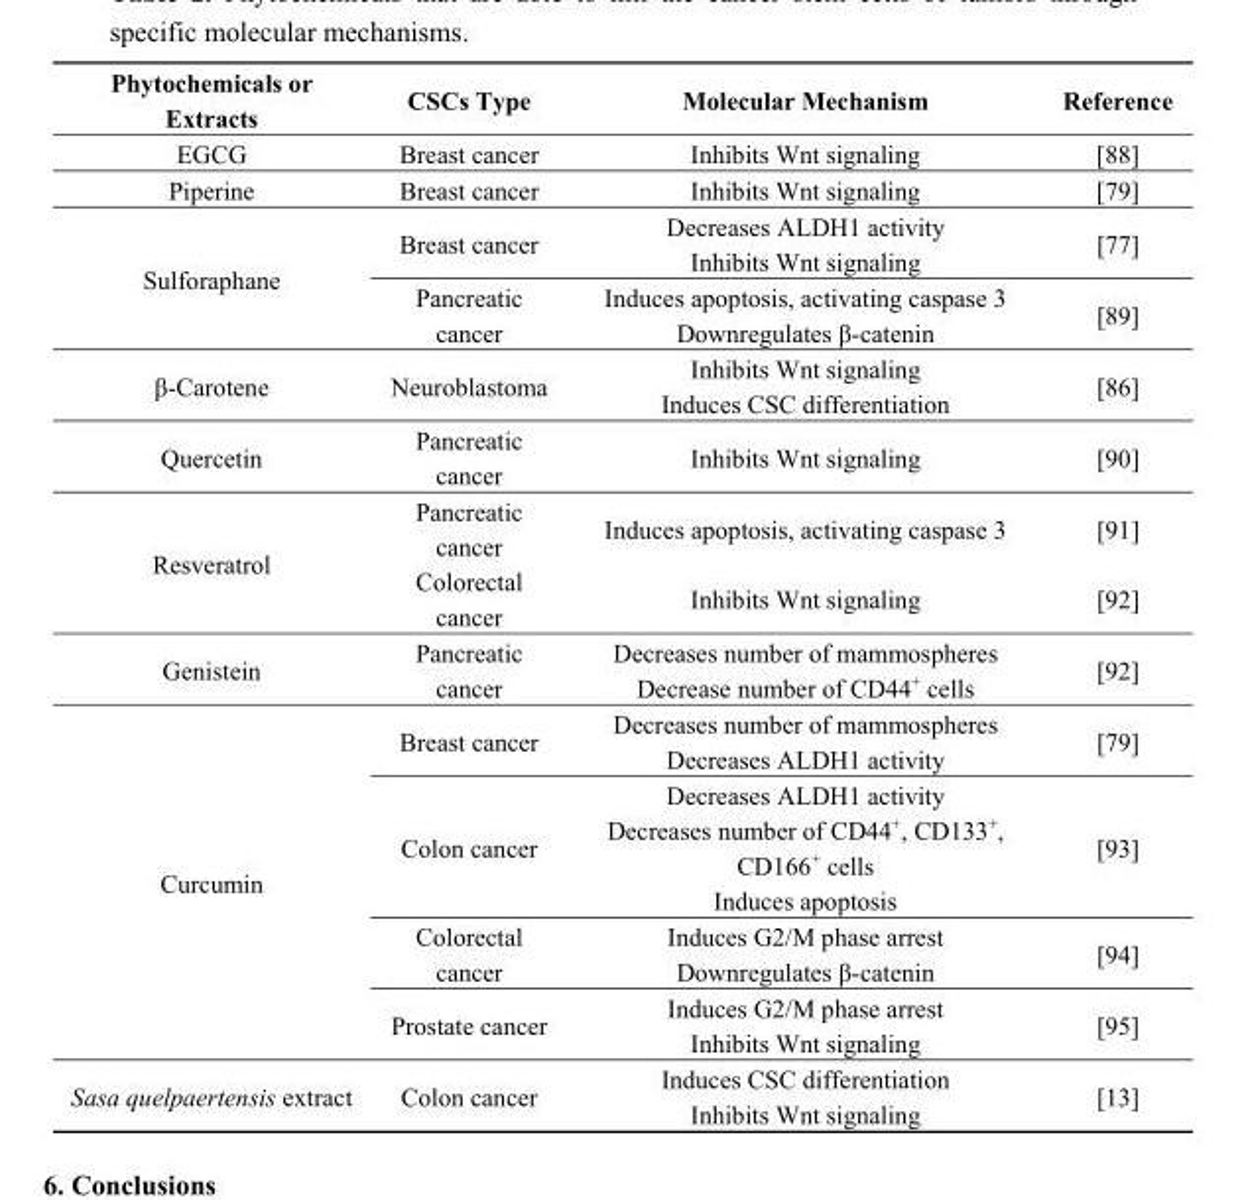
<table><thead><tr><td>Phytochemicals or Extracts</td><td>CSCs Type</td><td>Molecular Mechanism</td><td>Reference</td></tr></thead><tbody><tr><td>EGCG</td><td>Breast cancer</td><td>Inhibits Wnt signaling</td><td>[88]</td></tr><tr><td>Piperine</td><td>Breast cancer</td><td>Inhibits Wnt signaling</td><td>[79]</td></tr><tr><td rowspan="4">Sulforaphane</td><td rowspan="2">Breast cancer</td><td>Decreases ALDH1 activity</td><td rowspan="2">[77]</td></tr><tr><td>Inhibits Wnt signaling</td></tr><tr><td rowspan="2">Pancreatic cancer</td><td>Induces apoptosis, activating caspase 3</td><td rowspan="2">[89]</td></tr><tr><td>Downregulates β-catenin</td></tr><tr><td rowspan="2">β-Carotene</td><td rowspan="2">Neuroblastoma</td><td>Inhibits Wnt signaling</td><td rowspan="2">[86]</td></tr><tr><td>Induces CSC differentiation</td></tr><tr><td>Quercetin</td><td>Pancreatic cancer</td><td>Inhibits Wnt signaling</td><td>[90]</td></tr><tr><td rowspan="2">Resveratrol</td><td>Pancreatic cancer</td><td>Induces apoptosis, activating caspase 3</td><td>[91]</td></tr><tr><td>Colorectal cancer</td><td>Inhibits Wnt signaling</td><td>[92]</td></tr><tr><td rowspan="2">Genistein</td><td rowspan="2">Pancreatic cancer</td><td>Decreases number of mammospheres</td><td rowspan="2">[92]</td></tr><tr><td>Decrease number of CD44<sup>+</sup> cells</td></tr><tr><td rowspan="9">Curcumin</td><td rowspan="2">Breast cancer</td><td>Decreases number of mammospheres</td><td rowspan="2">[79]</td></tr><tr><td>Decreases ALDH1 activity</td></tr><tr><td rowspan="3">Colon cancer</td><td>Decreases ALDH1 activity</td><td rowspan="3">[93]</td></tr><tr><td>Decreases number of CD44<sup>+</sup>, CD133<sup>+</sup>, CD166<sup>+</sup> cells</td></tr><tr><td>Induces apoptosis</td></tr><tr><td rowspan="2">Colorectal cancer</td><td>Induces G2/M phase arrest</td><td rowspan="2">[94]</td></tr><tr><td>Downregulates β-catenin</td></tr><tr><td rowspan="2">Prostate cancer</td><td>Induces G2/M phase arrest</td><td rowspan="2">[95]</td></tr><tr><td>Inhibits Wnt signaling</td></tr><tr><td rowspan="2">Sasa quelpaertensis extract</td><td rowspan="2">Colon cancer</td><td>Induces CSC differentiation</td><td rowspan="2">[13]</td></tr><tr><td>Inhibits Wnt signaling</td></tr></tbody></table>